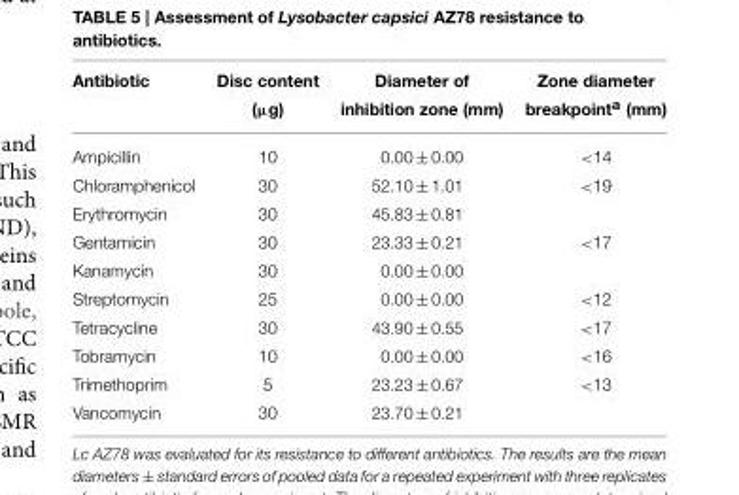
<table><thead><tr><td>Antibiotic</td><td>Disc content (µg)</td><td>Diameter of inhibition zone (mm)</td><td>Zone diameter breakpoint<sup>a</sup> (mm)</td></tr></thead><tbody><tr><td>Ampicillin</td><td>10</td><td>0.00 ± 0.00</td><td>&lt;14</td></tr><tr><td>Chloramphenicol</td><td>30</td><td>52.10 ± 1.01</td><td>&lt;19</td></tr><tr><td>Erythromycin</td><td>30</td><td>45.83 ± 0.81</td><td></td></tr><tr><td>Gentamicin</td><td>30</td><td>23.33 ± 0.21</td><td>&lt;17</td></tr><tr><td>Kanamycin</td><td>30</td><td>0.00 ± 0.00</td><td></td></tr><tr><td>Streptomycin</td><td>25</td><td>0.00 ± 0.00</td><td>&lt;12</td></tr><tr><td>Tetracycline</td><td>30</td><td>43.90 ± 0.55</td><td>&lt;17</td></tr><tr><td>Tobramycin</td><td>10</td><td>0.00 ± 0.00</td><td>&lt;16</td></tr><tr><td>Trimethoprim</td><td>5</td><td>23.23 ± 0.67</td><td>&lt;13</td></tr><tr><td>Vancomycin</td><td>30</td><td>23.70 ± 0.21</td><td></td></tr></tbody></table>